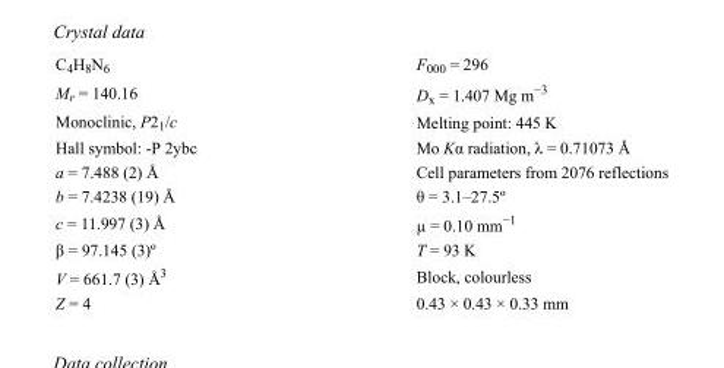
<table><tbody><tr><td>C<sub>4</sub>H<sub>8</sub>N<sub>6</sub></td><td>F000 = 296</td></tr><tr><td>M<sub>r</sub> = 140.16</td><td>D<sub>x</sub> = 1.407 Mg m<sup>−3</sup></td></tr><tr><td>Monoclinic, P2<sub>1</sub>/c</td><td>Melting point: 445 K</td></tr><tr><td>Hall symbol: -P 2ybc</td><td>Mo Kα radiation, λ = 0.71073 Å</td></tr><tr><td>a = 7.488 (2) Å</td><td>Cell parameters from 2076 reflections</td></tr><tr><td>b = 7.4238 (19) Å</td><td>θ = 3.1–27.5º</td></tr><tr><td>c = 11.997 (3) Å</td><td>µ = 0.10 mm<sup>−1</sup></td></tr><tr><td>β = 97.145 (3)º</td><td>T = 93 K</td></tr><tr><td>V = 661.7 (3) Å<sup>3</sup></td><td>Block, colourless</td></tr><tr><td>Z = 4</td><td>0.43 × 0.43 × 0.33 mm</td></tr></tbody></table>